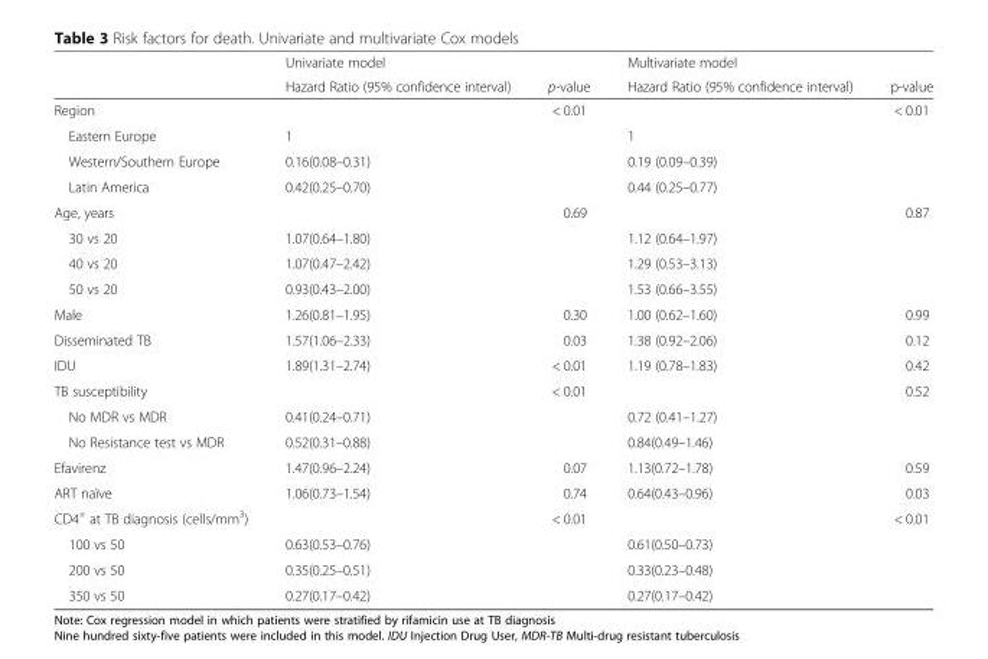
<table><thead><tr><td rowspan="2"></td><td rowspan="2">Univariate model Hazard Ratio (95% confidence interval)</td><td rowspan="2">p-value</td><td rowspan="2">Multivariate model Hazard Ratio (95% confidence interval)</td><td rowspan="2">p-value</td></tr><tr></tr></thead><tbody><tr><td>Region</td><td></td><td>&lt; 0.01</td><td></td><td>&lt; 0.01</td></tr><tr><td>Eastern Europe</td><td>1</td><td></td><td>1</td><td></td></tr><tr><td>Western/Southern Europe</td><td>0.16(0.08–0.31)</td><td></td><td>0.19 (0.09–0.39)</td><td></td></tr><tr><td>Latin America</td><td>0.42(0.25–0.70)</td><td></td><td>0.44 (0.25–0.77)</td><td></td></tr><tr><td>Age, years</td><td></td><td>0.69</td><td></td><td>0.87</td></tr><tr><td>30 vs 20</td><td>1.07(0.64–1.80)</td><td></td><td>1.12 (0.64–1.97)</td><td></td></tr><tr><td>40 vs 20</td><td>1.07(0.47–2.42)</td><td></td><td>1.29 (0.53–3.13)</td><td></td></tr><tr><td>50 vs 20</td><td>0.93(0.43–2.00)</td><td></td><td>1.53 (0.66–3.55)</td><td></td></tr><tr><td>Male</td><td>1.26(0.81–1.95)</td><td>0.30</td><td>1.00 (0.62–1.60)</td><td>0.99</td></tr><tr><td>Disseminated TB</td><td>1.57(1.06–2.33)</td><td>0.03</td><td>1.38 (0.92–2.06)</td><td>0.12</td></tr><tr><td>IDU</td><td>1.89(1.31–2.74)</td><td>&lt; 0.01</td><td>1.19 (0.78–1.83)</td><td>0.42</td></tr><tr><td>TB susceptibility</td><td></td><td>&lt; 0.01</td><td></td><td>0.52</td></tr><tr><td>No MDR vs MDR</td><td>0.41(0.24–0.71)</td><td></td><td>0.72 (0.41–1.27)</td><td></td></tr><tr><td>No Resistance test vs MDR</td><td>0.52(0.31–0.88)</td><td></td><td>0.84(0.49–1.46)</td><td></td></tr><tr><td>Efavirenz</td><td>1.47(0.96–2.24)</td><td>0.07</td><td>1.13(0.72–1.78)</td><td>0.59</td></tr><tr><td>ART naïve</td><td>1.06(0.73–1.54)</td><td>0.74</td><td>0.64(0.43–0.96)</td><td>0.03</td></tr><tr><td>CD4<sup>+</sup> at TB diagnosis (cells/mm<sup>3</sup>)</td><td></td><td>&lt; 0.01</td><td></td><td>&lt; 0.01</td></tr><tr><td>100 vs 50</td><td>0.63(0.53–0.76)</td><td></td><td>0.61(0.50–0.73)</td><td></td></tr><tr><td>200 vs 50</td><td>0.35(0.25–0.51)</td><td></td><td>0.33(0.23–0.48)</td><td></td></tr><tr><td>350 vs 50</td><td>0.27(0.17–0.42)</td><td></td><td>0.27(0.17–0.42)</td><td></td></tr></tbody></table>